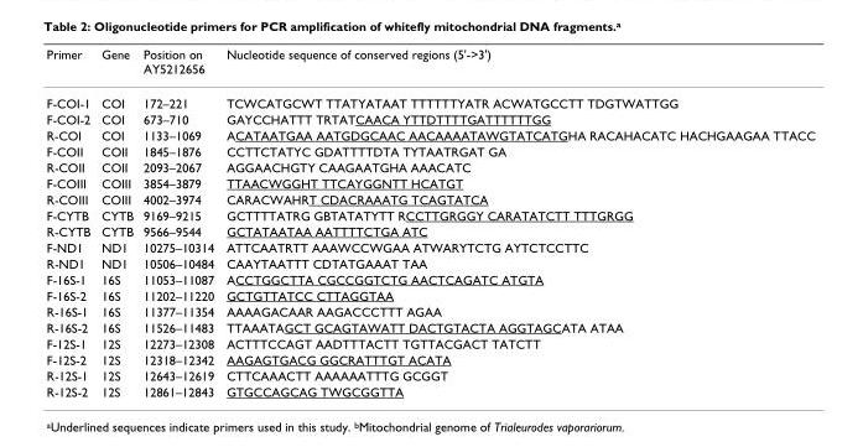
<table><thead><tr><td>Primer</td><td>Gene</td><td>Position on AY5212656</td><td>Nucleotide sequence of conserved regions (5&#x27;-&gt;3&#x27;)</td></tr></thead><tbody><tr><td>F-COI-1</td><td>COI</td><td>172–221</td><td>TCWCATGCWT TTATYATAAT TTTTTTYATR ACWATGCCTT TDGTWATTGG</td></tr><tr><td>F-COI-2</td><td>COI</td><td>673–710</td><td>GAYCCHATTT TRTATCAACA YTTDTTTTGATTTTTTGG</td></tr><tr><td>R-COI</td><td>COI</td><td>1133–1069</td><td>ACATAATGAA AATGDGCAAC AACAAAATAWGTATCATGHA RACAHACATC HACHGAAGAA TTACC</td></tr><tr><td>F-COII</td><td>COII</td><td>1845–1876</td><td>CCTTCTATYC GDATTTTDTA TYTAATRGAT GA</td></tr><tr><td>R-COII</td><td>COII</td><td>2093–2067</td><td>AGGAACHGTY CAAGAATGHA AAACATC</td></tr><tr><td>F-COIII</td><td>COIII</td><td>3854–3879</td><td>TTAACWGGHT TTCAYGGNTT HCATGT</td></tr><tr><td>R-COIII</td><td>COIII</td><td>4002–3974</td><td>CARACWAHRT CDACRAAATG TCAGTATCA</td></tr><tr><td>F-CYTB</td><td>CYTB</td><td>9169–9215</td><td>GCTTTTATRG GBTATATYTT RCCTTGRGGY CARATATCTT TTTGRGG</td></tr><tr><td>R-CYTB</td><td>CYTB</td><td>9566–9544</td><td>GCTATAATAA AATTTTCTGA ATC</td></tr><tr><td>F-ND1</td><td>ND1</td><td>10275–10314</td><td>ATTCAATRTT AAAWCCWGAA ATWARYTCTG AYTCTCCTTC</td></tr><tr><td>R-ND1</td><td>ND1</td><td>10506–10484</td><td>CAAYTAATTT CDTATGAAAT TAA</td></tr><tr><td>F-16S-1</td><td>16S</td><td>11053–11087</td><td>ACCTGGCTTA CGCCGGTCTG AACTCAGATC ATGTA</td></tr><tr><td>F-16S-2</td><td>16S</td><td>11202–11220</td><td>GCTGTTATCC CTTAGGTAA</td></tr><tr><td>R-16S-1</td><td>16S</td><td>11377–11354</td><td>AAAAGACAAR AAGACCCTTT AGAA</td></tr><tr><td>R-16S-2</td><td>16S</td><td>11526–11483</td><td>TTAAATAGCT GCAGTAWATT DACTGTACTA AGGTAGCATA ATAA</td></tr><tr><td>F-12S-1</td><td>12S</td><td>12273–12308</td><td>ACTTTCCAGT AADTTTACTT TGTTACGACT TATCTT</td></tr><tr><td>F-12S-2</td><td>12S</td><td>12318–12342</td><td>AAGAGTGACG GGCRATTTGT ACATA</td></tr><tr><td>R-12S-1</td><td>12S</td><td>12643–12619</td><td>CTTCAAACTT AAAAAATTTG GCGGT</td></tr><tr><td>R-12S-2</td><td>12S</td><td>12861–12843</td><td>GTGCCAGCAG TWGCGGTTA</td></tr></tbody></table>